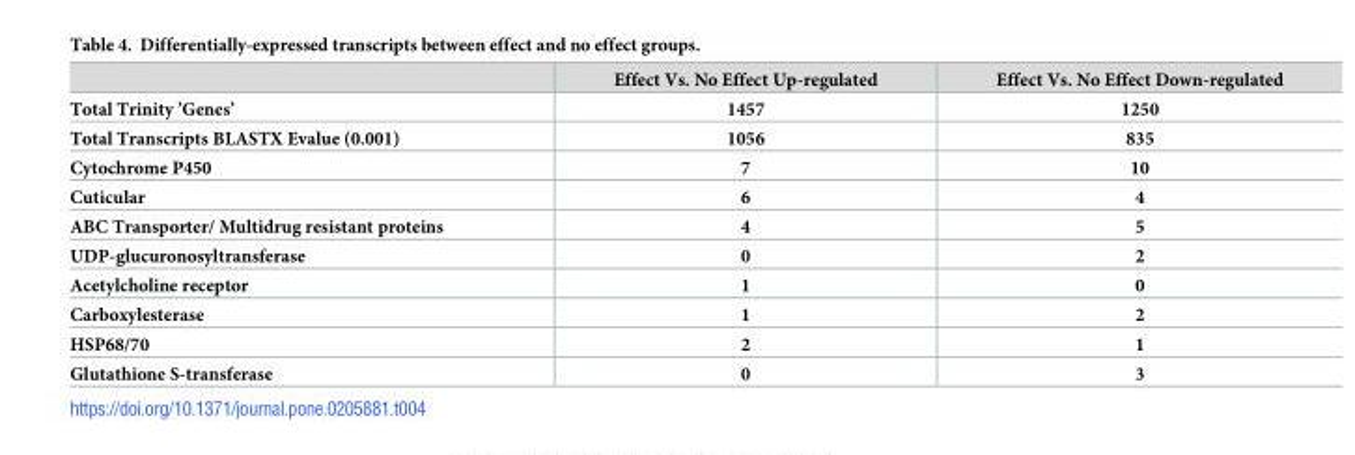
<table><thead><tr><td></td><td>Effect Vs. No Effect Up-regulated</td><td>Effect Vs. No Effect Down-regulated</td></tr></thead><tbody><tr><td>Total Trinity ’Genes’</td><td>1457</td><td>1250</td></tr><tr><td>Total Transcripts BLASTX Evalue (0.001)</td><td>1056</td><td>835</td></tr><tr><td>Cytochrome P450</td><td>7</td><td>10</td></tr><tr><td>Cuticular</td><td>6</td><td>4</td></tr><tr><td>ABC Transporter/ Multidrug resistant proteins</td><td>4</td><td>5</td></tr><tr><td>UDP-glucuronosyltransferase</td><td>0</td><td>2</td></tr><tr><td>Acetylcholine receptor</td><td>1</td><td>0</td></tr><tr><td>Carboxylesterase</td><td>1</td><td>2</td></tr><tr><td>HSP68/70</td><td>2</td><td>1</td></tr><tr><td>Glutathione S-transferase</td><td>0</td><td>3</td></tr></tbody></table>